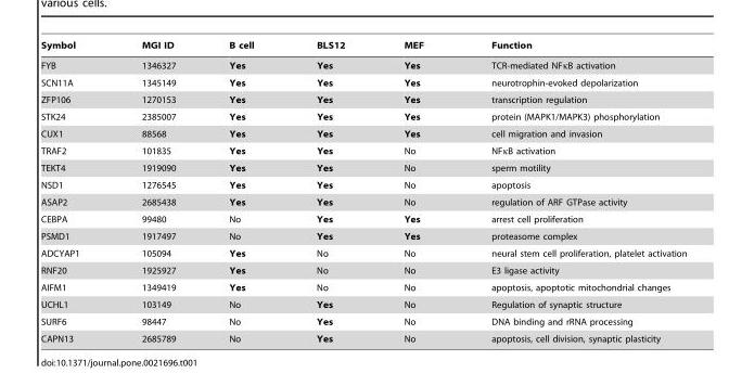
<table><thead><tr><td>Symbol</td><td>MGI ID</td><td>B cell</td><td>BLS12</td><td>MEF</td><td>Function</td></tr></thead><tbody><tr><td>FYB</td><td>1346327</td><td>Yes</td><td>Yes</td><td>Yes</td><td>TCR-mediated NFκB activation</td></tr><tr><td>SCN11A</td><td>1345149</td><td>Yes</td><td>Yes</td><td>Yes</td><td>neurotrophin-evoked depolarization</td></tr><tr><td>ZFP106</td><td>1270153</td><td>Yes</td><td>Yes</td><td>Yes</td><td>transcription regulation</td></tr><tr><td>STK24</td><td>2385007</td><td>Yes</td><td>Yes</td><td>Yes</td><td>protein (MAPK1/MAPK3) phosphorylation</td></tr><tr><td>CUX1</td><td>88568</td><td>Yes</td><td>Yes</td><td>Yes</td><td>cell migration and invasion</td></tr><tr><td>TRAF2</td><td>101835</td><td>Yes</td><td>Yes</td><td>No</td><td>NFκB activation</td></tr><tr><td>TEKT4</td><td>1919090</td><td>Yes</td><td>Yes</td><td>No</td><td>sperm motility</td></tr><tr><td>NSD1</td><td>1276545</td><td>Yes</td><td>Yes</td><td>No</td><td>apoptosis</td></tr><tr><td>ASAP2</td><td>2685438</td><td>Yes</td><td>Yes</td><td>No</td><td>regulation of ARF GTPase activity</td></tr><tr><td>CEBPA</td><td>99480</td><td>No</td><td>Yes</td><td>Yes</td><td>arrest cell proliferation</td></tr><tr><td>PSMD1</td><td>1917497</td><td>No</td><td>Yes</td><td>Yes</td><td>proteasome complex</td></tr><tr><td>ADCYAP1</td><td>105094</td><td>Yes</td><td>No</td><td>No</td><td>neural stem cell proliferation, platelet activation</td></tr><tr><td>RNF20</td><td>1925927</td><td>Yes</td><td>No</td><td>No</td><td>E3 ligase activity</td></tr><tr><td>AIFM1</td><td>1349419</td><td>Yes</td><td>No</td><td>No</td><td>apoptosis, apoptotic mitochondrial changes</td></tr><tr><td>UCHL1</td><td>103149</td><td>No</td><td>Yes</td><td>No</td><td>Regulation of synaptic structure</td></tr><tr><td>SURF6</td><td>98447</td><td>No</td><td>Yes</td><td>No</td><td>DNA binding and rRNA processing</td></tr><tr><td>CAPN13</td><td>2685789</td><td>No</td><td>Yes</td><td>No</td><td>apoptosis, cell division, synaptic plasticity</td></tr></tbody></table>